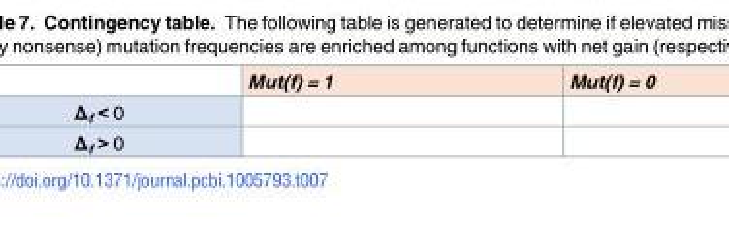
<table><thead><tr><td></td><td>Mut(f) = 1</td><td>Mut(f) = 0</td></tr></thead><tbody><tr><td colspan="3">Δ<sub>f</sub> &lt; 0</td></tr><tr><td>Δ<sub>f</sub> &gt; 0</td><td></td><td></td></tr></tbody></table>